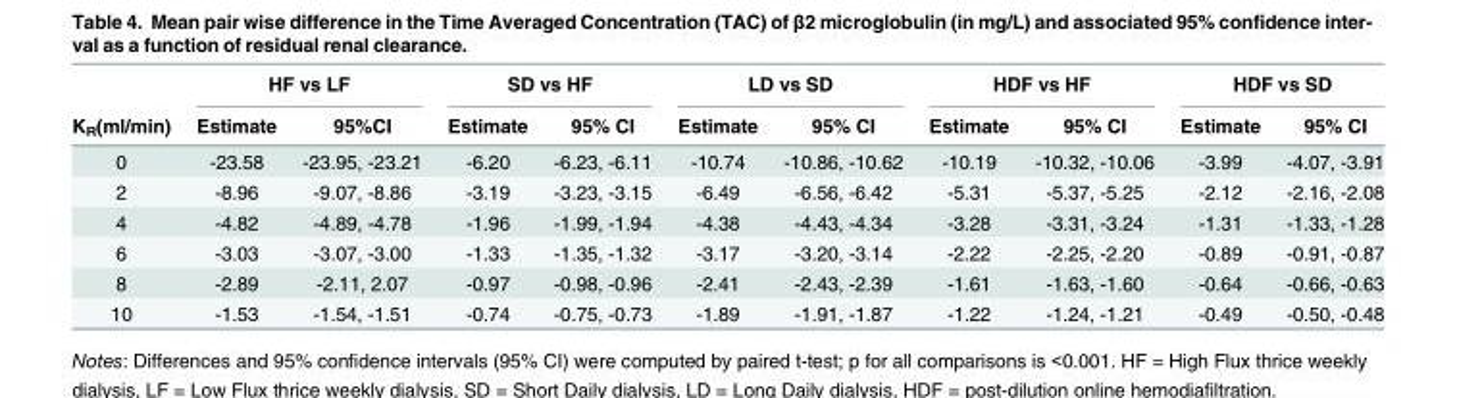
<table><thead><tr><td rowspan="2">K<sub>R</sub>(ml/min)</td><td colspan="2">HF vs LF</td><td colspan="2">SD vs HF</td><td colspan="2">LD vs SD</td><td colspan="2">HDF vs HF</td><td colspan="2">HDF vs SD</td></tr><tr><td>Estimate</td><td>95%CI</td><td>Estimate</td><td>95% CI</td><td>Estimate</td><td>95% CI</td><td>Estimate</td><td>95% CI</td><td>Estimate</td><td>95% CI</td></tr></thead><tbody><tr><td>0</td><td>-23.58</td><td>-23.95, -23.21</td><td>-6.20</td><td>-6.23, -6.11</td><td>-10.74</td><td>-10.86, -10.62</td><td>-10.19</td><td>-10.32, -10.06</td><td>-3.99</td><td>-4.07, -3.91</td></tr><tr><td>2</td><td>-8.96</td><td>-9.07, -8.86</td><td>-3.19</td><td>-3.23, -3.15</td><td>-6.49</td><td>-6.56, -6.42</td><td>-5.31</td><td>-5.37, -5.25</td><td>-2.12</td><td>-2.16, -2.08</td></tr><tr><td>4</td><td>-4.82</td><td>-4.89, -4.78</td><td>-1.96</td><td>-1.99, -1.94</td><td>-4.38</td><td>-4.43, -4.34</td><td>-3.28</td><td>-3.31, -3.24</td><td>-1.31</td><td>-1.33, -1.28</td></tr><tr><td>6</td><td>-3.03</td><td>-3.07, -3.00</td><td>-1.33</td><td>-1.35, -1.32</td><td>-3.17</td><td>-3.20, -3.14</td><td>-2.22</td><td>-2.25, -2.20</td><td>-0.89</td><td>-0.91, -0.87</td></tr><tr><td>8</td><td>-2.89</td><td>-2.11, 2.07</td><td>-0.97</td><td>-0.98, -0.96</td><td>-2.41</td><td>-2.43, -2.39</td><td>-1.61</td><td>-1.63, -1.60</td><td>-0.64</td><td>-0.66, -0.63</td></tr><tr><td>10</td><td>-1.53</td><td>-1.54, -1.51</td><td>-0.74</td><td>-0.75, -0.73</td><td>-1.89</td><td>-1.91, -1.87</td><td>-1.22</td><td>-1.24, -1.21</td><td>-0.49</td><td>-0.50, -0.48</td></tr></tbody></table>